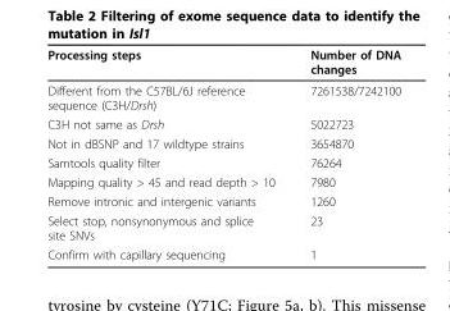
<table><thead><tr><td>Processing steps</td><td>Number of DNA changes</td></tr></thead><tbody><tr><td>Different from the C57BL/6J reference sequence (C3H/Drsh)</td><td>7261538/7242100</td></tr><tr><td>C3H not same as Drsh</td><td>5022723</td></tr><tr><td>Not in dBSNP and 17 wildtype strains</td><td>3654870</td></tr><tr><td>Samtools quality filter</td><td>76264</td></tr><tr><td>Mapping quality &gt; 45 and read depth &gt; 10</td><td>7980</td></tr><tr><td>Remove intronic and intergenic variants</td><td>1260</td></tr><tr><td>Select stop, nonsynonymous and splice site SNVs</td><td>23</td></tr><tr><td>Confirm with capillary sequencing</td><td>1</td></tr></tbody></table>